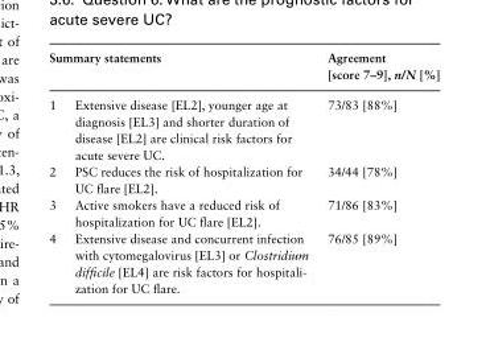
<table><thead><tr><td colspan="2">Summary statements</td><td rowspan="2">Agreement [score 7–9], n/N [%] 73/83 [88%]</td></tr><tr><td>1</td><td>Extensive disease [EL2], younger age at diagnosis [EL3] and shorter duration of disease [EL2] are clinical risk factors for acute severe UC.</td></tr></thead><tbody><tr><td>2</td><td>PSC reduces the risk of hospitalization for UC flare [EL2].</td><td>34/44 [78%]</td></tr><tr><td>3</td><td>Active smokers have a reduced risk of hospitalization for UC flare [EL2].</td><td>71/86 [83%]</td></tr><tr><td>4</td><td>Extensive disease and concurrent infection with cytomegalovirus [EL3] or Clostridium difficile [EL4] are risk factors for hospitali- zation for UC flare.</td><td>76/85 [89%]</td></tr></tbody></table>